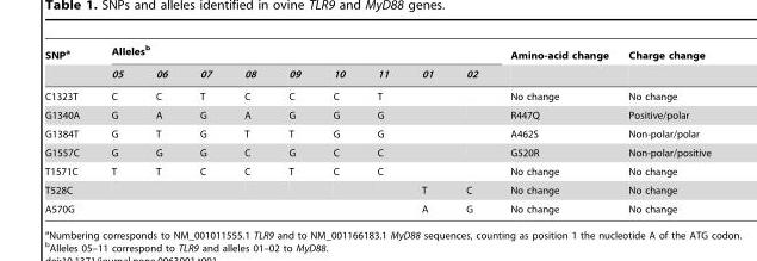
<table><thead><tr><td rowspan="2">SNP<sup>a</sup></td><td colspan="9">Alleles<sup>b</sup></td><td rowspan="2">Amino-acid change</td><td rowspan="2">Charge change</td></tr><tr><td>05</td><td>06</td><td>07</td><td>08</td><td>09</td><td>10</td><td>11</td><td>01</td><td>02</td></tr></thead><tbody><tr><td>C1323T</td><td>C</td><td>C</td><td>T</td><td>C</td><td>C</td><td>C</td><td>T</td><td></td><td></td><td>No change</td><td>No change</td></tr><tr><td>G1340A</td><td>G</td><td>A</td><td>G</td><td>A</td><td>G</td><td>G</td><td>G</td><td></td><td></td><td>R447Q</td><td>Positive/polar</td></tr><tr><td>G1384T</td><td>G</td><td>T</td><td>G</td><td>T</td><td>T</td><td>G</td><td>G</td><td></td><td></td><td>A462S</td><td>Non-polar/polar</td></tr><tr><td>G1557C</td><td>G</td><td>G</td><td>G</td><td>C</td><td>G</td><td>C</td><td>C</td><td></td><td></td><td>G520R</td><td>Non-polar/positive</td></tr><tr><td>T1571C</td><td>T</td><td>T</td><td>C</td><td>C</td><td>T</td><td>C</td><td>C</td><td></td><td></td><td>No change</td><td>No change</td></tr><tr><td>T528C</td><td></td><td></td><td></td><td></td><td></td><td></td><td></td><td>T</td><td>C</td><td>No change</td><td>No change</td></tr><tr><td>A570G</td><td></td><td></td><td></td><td></td><td></td><td></td><td></td><td>A</td><td>G</td><td>No change</td><td>No change</td></tr></tbody></table>